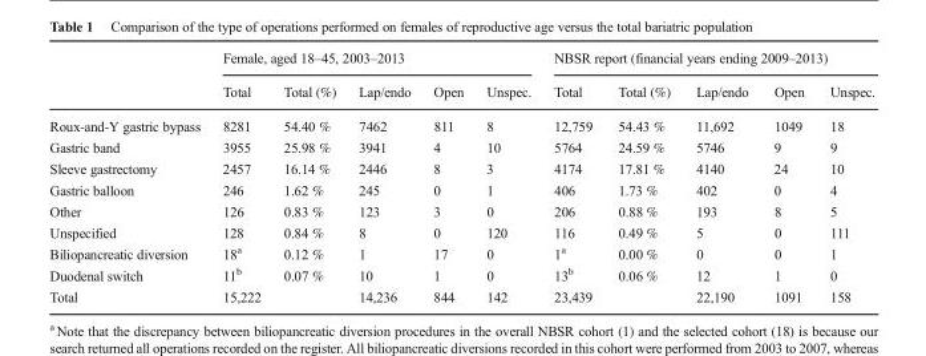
<table><thead><tr><td rowspan="2"></td><td colspan="5">Female, aged 18–45, 2003–2013</td><td colspan="5">NBSR report (financial years ending 2009–2013)</td></tr><tr><td>Total</td><td>Total (%)</td><td>Lap/endo</td><td>Open</td><td>Unspec.</td><td>Total</td><td>Total (%)</td><td>Lap/endo</td><td>Open</td><td>Unspec.</td></tr></thead><tbody><tr><td>Roux-and-Y gastric bypass</td><td>8281</td><td>54.40 %</td><td>7462</td><td>811</td><td>8</td><td>12,759</td><td>54.43 %</td><td>11,692</td><td>1049</td><td>18</td></tr><tr><td>Gastric band</td><td>3955</td><td>25.98 %</td><td>3941</td><td>4</td><td>10</td><td>5764</td><td>24.59 %</td><td>5746</td><td>9</td><td>9</td></tr><tr><td>Sleeve gastrectomy</td><td>2457</td><td>16.14 %</td><td>2446</td><td>8</td><td>3</td><td>4174</td><td>17.81 %</td><td>4140</td><td>24</td><td>10</td></tr><tr><td>Gastric balloon</td><td>246</td><td>1.62 %</td><td>245</td><td>0</td><td>1</td><td>406</td><td>1.73 %</td><td>402</td><td>0</td><td>4</td></tr><tr><td>Other</td><td>126</td><td>0.83 %</td><td>123</td><td>3</td><td>0</td><td>206</td><td>0.88 %</td><td>193</td><td>8</td><td>5</td></tr><tr><td>Unspecified</td><td>128</td><td>0.84 %</td><td>8</td><td>0</td><td>120</td><td>116</td><td>0.49 %</td><td>5</td><td>0</td><td>111</td></tr><tr><td>Biliopancreatic diversion</td><td>18<sup>a</sup></td><td>0.12 %</td><td>1</td><td>17</td><td>0</td><td>1<sup>a</sup></td><td>0.00 %</td><td>0</td><td>0</td><td>1</td></tr><tr><td>Duodenal switch</td><td>11<sup>b</sup></td><td>0.07 %</td><td>10</td><td>1</td><td>0</td><td>13<sup>b</sup></td><td>0.06 %</td><td>12</td><td>1</td><td>0</td></tr><tr><td>Total</td><td>15,222</td><td></td><td>14,236</td><td>844</td><td>142</td><td>23,439</td><td></td><td>22,190</td><td>1091</td><td>158</td></tr></tbody></table>